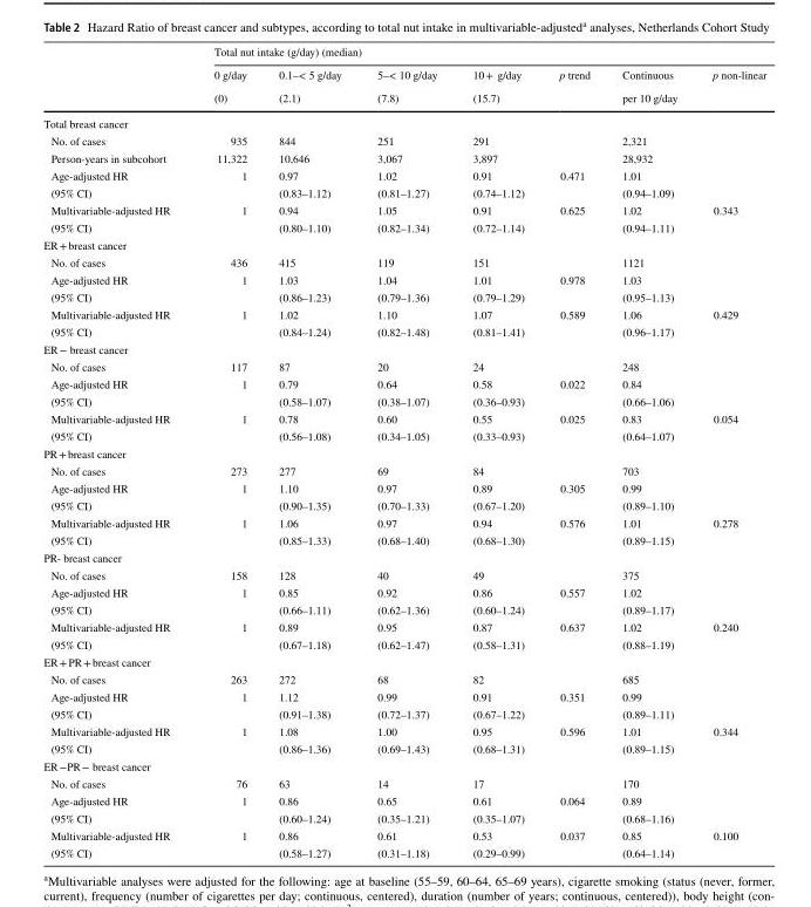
<table><thead><tr><td rowspan="3"></td><td colspan="7">Total nut intake (g/day) (median)</td></tr><tr><td rowspan="2">0 g/day (0)</td><td rowspan="2">0.1–&lt; 5 g/day (2.1)</td><td rowspan="2">5–&lt; 10 g/day (7.8)</td><td rowspan="2">10 + g/day (15.7)</td><td rowspan="2">p trend</td><td rowspan="2">Continuous per 10 g/day</td><td rowspan="2">p non-linear</td></tr><tr></tr></thead><tbody><tr><td colspan="8">Total breast cancer</td></tr><tr><td>No. of cases</td><td>935</td><td>844</td><td>251</td><td>291</td><td></td><td>2,321</td><td></td></tr><tr><td>Person-years in subcohort</td><td>11,322</td><td>10,646</td><td>3,067</td><td>3,897</td><td></td><td>28,932</td><td></td></tr><tr><td>Age-adjusted HR</td><td>1</td><td>0.97</td><td>1.02</td><td>0.91</td><td>0.471</td><td>1.01</td><td></td></tr><tr><td>(95% CI)</td><td></td><td>(0.83–1.12)</td><td>(0.81–1.27)</td><td>(0.74–1.12)</td><td></td><td>(0.94–1.09)</td><td></td></tr><tr><td>Multivariable-adjusted HR</td><td>1</td><td>0.94</td><td>1.05</td><td>0.91</td><td>0.625</td><td>1.02</td><td>0.343</td></tr><tr><td>(95% CI)</td><td></td><td>(0.80–1.10)</td><td>(0.82–1.34)</td><td>(0.72–1.14)</td><td></td><td>(0.94–1.11)</td><td></td></tr><tr><td colspan="8">ER + breast cancer</td></tr><tr><td>No. of cases</td><td>436</td><td>415</td><td>119</td><td>151</td><td></td><td>1121</td><td></td></tr><tr><td>Age-adjusted HR</td><td>1</td><td>1.03</td><td>1.04</td><td>1.01</td><td>0.978</td><td>1.03</td><td></td></tr><tr><td>(95% CI)</td><td></td><td>(0.86–1.23)</td><td>(0.79–1.36)</td><td>(0.79–1.29)</td><td></td><td>(0.95–1.13)</td><td></td></tr><tr><td>Multivariable-adjusted HR</td><td>1</td><td>1.02</td><td>1.10</td><td>1.07</td><td>0.589</td><td>1.06</td><td>0.429</td></tr><tr><td>(95% CI)</td><td></td><td>(0.84–1.24)</td><td>(0.82–1.48)</td><td>(0.81–1.41)</td><td></td><td>(0.96–1.17)</td><td></td></tr><tr><td colspan="8">ER − breast cancer</td></tr><tr><td>No. of cases</td><td>117</td><td>87</td><td>20</td><td>24</td><td></td><td>248</td><td></td></tr><tr><td>Age-adjusted HR</td><td>1</td><td>0.79</td><td>0.64</td><td>0.58</td><td>0.022</td><td>0.84</td><td></td></tr><tr><td>(95% CI)</td><td></td><td>(0.58–1.07)</td><td>(0.38–1.07)</td><td>(0.36–0.93)</td><td></td><td>(0.66–1.06)</td><td></td></tr><tr><td>Multivariable-adjusted HR</td><td>1</td><td>0.78</td><td>0.60</td><td>0.55</td><td>0.025</td><td>0.83</td><td>0.054</td></tr><tr><td>(95% CI)</td><td></td><td>(0.56–1.08)</td><td>(0.34–1.05)</td><td>(0.33–0.93)</td><td></td><td>(0.64–1.07)</td><td></td></tr><tr><td colspan="8">PR + breast cancer</td></tr><tr><td>No. of cases</td><td>273</td><td>277</td><td>69</td><td>84</td><td></td><td>703</td><td></td></tr><tr><td>Age-adjusted HR</td><td>1</td><td>1.10</td><td>0.97</td><td>0.89</td><td>0.305</td><td>0.99</td><td></td></tr><tr><td>(95% CI)</td><td></td><td>(0.90–1.35)</td><td>(0.70–1.33)</td><td>(0.67–1.20)</td><td></td><td>(0.89–1.10)</td><td></td></tr><tr><td>Multivariable-adjusted HR</td><td>1</td><td>1.06</td><td>0.97</td><td>0.94</td><td>0.576</td><td>1.01</td><td>0.278</td></tr><tr><td>(95% CI)</td><td></td><td>(0.85–1.33)</td><td>(0.68–1.40)</td><td>(0.68–1.30)</td><td></td><td>(0.89–1.15)</td><td></td></tr><tr><td colspan="8">PR- breast cancer</td></tr><tr><td>No. of cases</td><td>158</td><td>128</td><td>40</td><td>49</td><td></td><td>375</td><td></td></tr><tr><td>Age-adjusted HR</td><td>1</td><td>0.85</td><td>0.92</td><td>0.86</td><td>0.557</td><td>1.02</td><td></td></tr><tr><td>(95% CI)</td><td></td><td>(0.66–1.11)</td><td>(0.62–1.36)</td><td>(0.60–1.24)</td><td></td><td>(0.89–1.17)</td><td></td></tr><tr><td>Multivariable-adjusted HR</td><td>1</td><td>0.89</td><td>0.95</td><td>0.87</td><td>0.637</td><td>1.02</td><td>0.240</td></tr><tr><td>(95% CI)</td><td></td><td>(0.67–1.18)</td><td>(0.62–1.47)</td><td>(0.58–1.31)</td><td></td><td>(0.88–1.19)</td><td></td></tr><tr><td colspan="8">ER + PR + breast cancer</td></tr><tr><td>No. of cases</td><td>263</td><td>272</td><td>68</td><td>82</td><td></td><td>685</td><td></td></tr><tr><td>Age-adjusted HR</td><td>1</td><td>1.12</td><td>0.99</td><td>0.91</td><td>0.351</td><td>0.99</td><td></td></tr><tr><td>(95% CI)</td><td></td><td>(0.91–1.38)</td><td>(0.72–1.37)</td><td>(0.67–1.22)</td><td></td><td>(0.89–1.11)</td><td></td></tr><tr><td>Multivariable-adjusted HR</td><td>1</td><td>1.08</td><td>1.00</td><td>0.95</td><td>0.596</td><td>1.01</td><td>0.344</td></tr><tr><td>(95% CI)</td><td></td><td>(0.86–1.36)</td><td>(0.69–1.43)</td><td>(0.68–1.31)</td><td></td><td>(0.89–1.15)</td><td></td></tr><tr><td colspan="8">ER −PR − breast cancer</td></tr><tr><td>No. of cases</td><td>76</td><td>63</td><td>14</td><td>17</td><td></td><td>170</td><td></td></tr><tr><td>Age-adjusted HR</td><td>1</td><td>0.86</td><td>0.65</td><td>0.61</td><td>0.064</td><td>0.89</td><td></td></tr><tr><td>(95% CI)</td><td></td><td>(0.60–1.24)</td><td>(0.35–1.21)</td><td>(0.35–1.07)</td><td></td><td>(0.68–1.16)</td><td></td></tr><tr><td>Multivariable-adjusted HR</td><td>1</td><td>0.86</td><td>0.61</td><td>0.53</td><td>0.037</td><td>0.85</td><td>0.100</td></tr><tr><td>(95% CI)</td><td></td><td>(0.58–1.27)</td><td>(0.31–1.18)</td><td>(0.29–0.99)</td><td></td><td>(0.64–1.14)</td><td></td></tr></tbody></table>